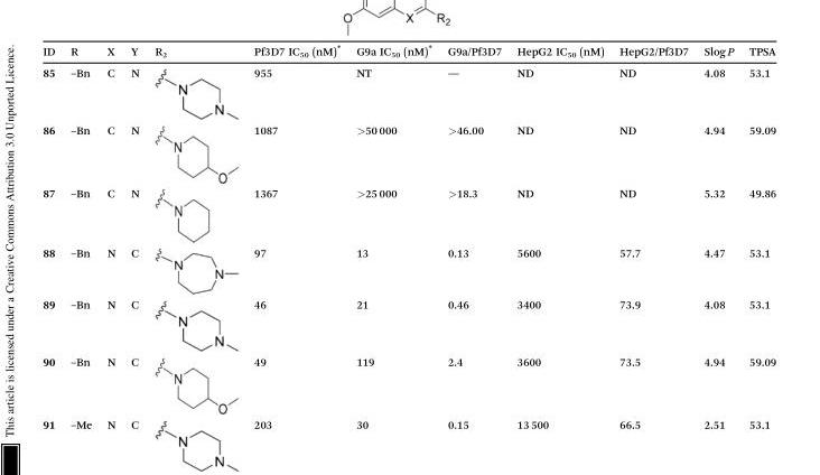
<table><thead><tr><td>ID</td><td>R</td><td>X</td><td>Y</td><td>R<sub>2</sub></td><td>Pf3D7 IC<sub>50</sub> (nM)*</td><td>G9a IC<sub>50</sub> (nM)*</td><td>G9a/Pf3D7</td><td>HepG2 IC<sub>50</sub> (nM)</td><td>HepG2/Pf3D7</td><td>Slog P</td><td>TPSA</td></tr></thead><tbody><tr><td>85</td><td>–Bn</td><td>C</td><td>N</td><td></td><td>955</td><td>NT</td><td>—</td><td>ND</td><td>ND</td><td>4.08</td><td>53.1</td></tr><tr><td>86</td><td>–Bn</td><td>C</td><td>N</td><td></td><td>1087</td><td>&gt;50 000</td><td>&gt;46.00</td><td>ND</td><td>ND</td><td>4.94</td><td>59.09</td></tr><tr><td>87</td><td>–Bn</td><td>C</td><td>N</td><td></td><td>1367</td><td>&gt;25 000</td><td>&gt;18.3</td><td>ND</td><td>ND</td><td>5.32</td><td>49.86</td></tr><tr><td>88</td><td>–Bn</td><td>N</td><td>C</td><td></td><td>97</td><td>13</td><td>0.13</td><td>5600</td><td>57.7</td><td>4.47</td><td>53.1</td></tr><tr><td>89</td><td>–Bn</td><td>N</td><td>C</td><td></td><td>46</td><td>21</td><td>0.46</td><td>3400</td><td>73.9</td><td>4.08</td><td>53.1</td></tr><tr><td>90</td><td>–Bn</td><td>N</td><td>C</td><td></td><td>49</td><td>119</td><td>2.4</td><td>3600</td><td>73.5</td><td>4.94</td><td>59.09</td></tr><tr><td>91</td><td>–Me</td><td>N</td><td>C</td><td></td><td>203</td><td>30</td><td>0.15</td><td>13 500</td><td>66.5</td><td>2.51</td><td>53.1</td></tr></tbody></table>